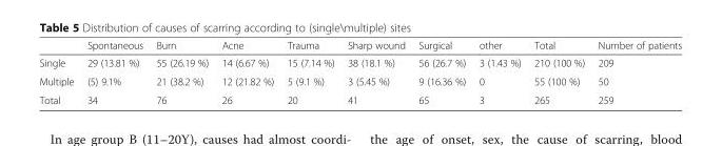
<table><thead><tr><td></td><td>Spontaneous</td><td>Burn</td><td>Acne</td><td>Trauma</td><td>Sharp wound</td><td>Surgical</td><td>other</td><td>Total</td><td>Number of patients</td></tr></thead><tbody><tr><td>Single</td><td>29 (13.81 %)</td><td>55 (26.19 %)</td><td>14 (6.67 %)</td><td>15 (7.14 %)</td><td>38 (18.1 %)</td><td>56 (26.7 %)</td><td>3 (1.43 %)</td><td>210 (100 %)</td><td>209</td></tr><tr><td>Multiple</td><td>(5) 9.1%</td><td>21 (38.2 %)</td><td>12 (21.82 %)</td><td>5 (9.1 %)</td><td>3 (5.45 %)</td><td>9 (16.36 %)</td><td>0</td><td>55 (100 %)</td><td>50</td></tr><tr><td>Total</td><td>34</td><td>76</td><td>26</td><td>20</td><td>41</td><td>65</td><td>3</td><td>265</td><td>259</td></tr></tbody></table>